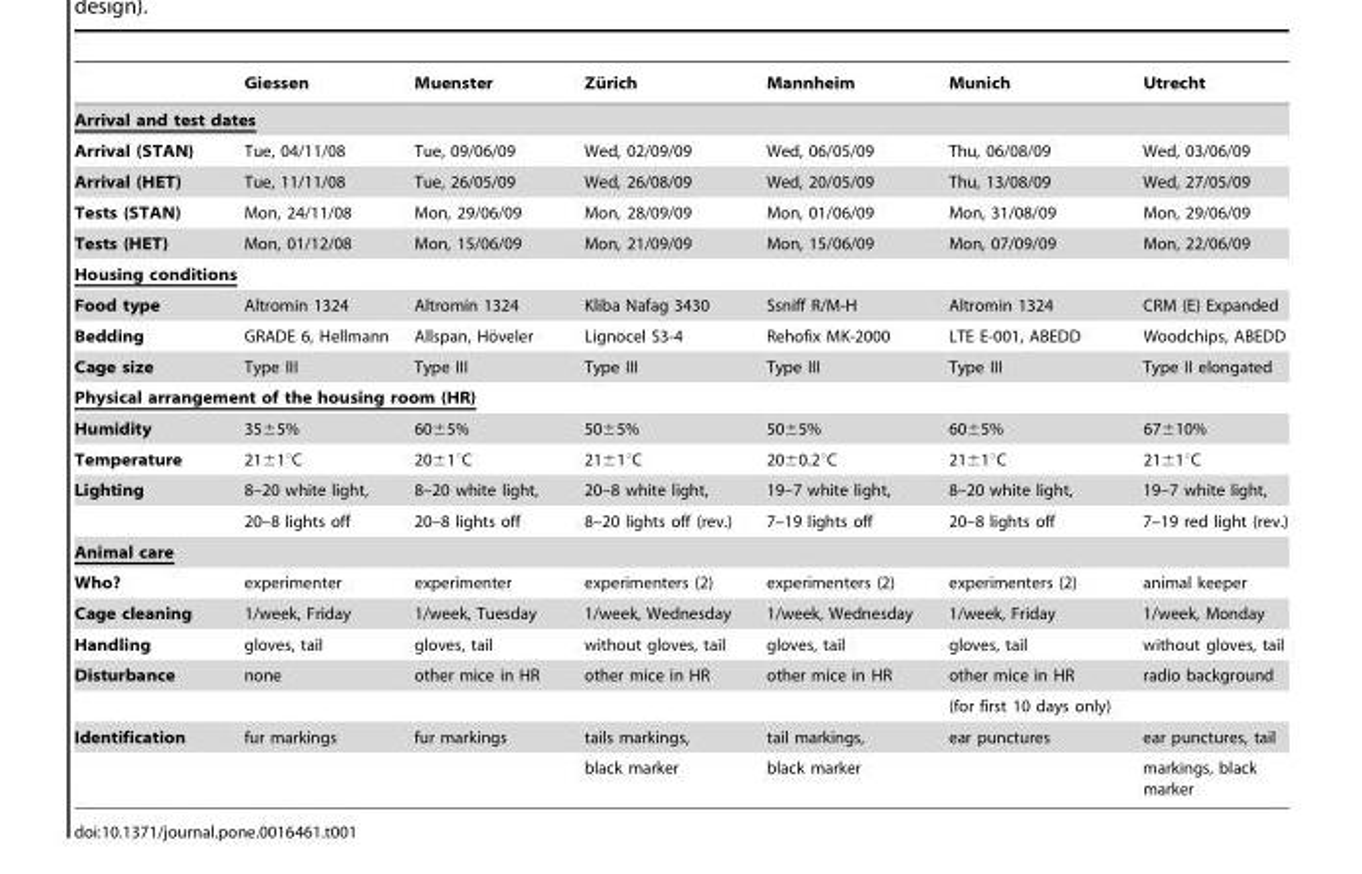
<table><thead><tr><td></td><td>Giessen</td><td>Muenster</td><td>Zu¨ rich</td><td>Mannheim</td><td>Munich</td><td>Utrecht</td></tr></thead><tbody><tr><td colspan="7">Arrival and test dates</td></tr><tr><td>Arrival (STAN)</td><td>Tue, 04/11/08</td><td>Tue, 09/06/09</td><td>Wed, 02/09/09</td><td>Wed, 06/05/09</td><td>Thu, 06/08/09</td><td>Wed, 03/06/09</td></tr><tr><td>Arrival (HET)</td><td>Tue, 11/11/08</td><td>Tue, 26/05/09</td><td>Wed, 26/08/09</td><td>Wed, 20/05/09</td><td>Thu, 13/08/09</td><td>Wed, 27/05/09</td></tr><tr><td>Tests (STAN)</td><td>Mon, 24/11/08</td><td>Mon, 29/06/09</td><td>Mon, 28/09/09</td><td>Mon, 01/06/09</td><td>Mon, 31/08/09</td><td>Mon, 29/06/09</td></tr><tr><td>Tests (HET)</td><td>Mon, 01/12/08</td><td>Mon, 15/06/09</td><td>Mon, 21/09/09</td><td>Mon, 15/06/09</td><td>Mon, 07/09/09</td><td>Mon, 22/06/09</td></tr><tr><td colspan="7">Housing conditions</td></tr><tr><td>Food type</td><td>Altromin 1324</td><td>Altromin 1324</td><td>Kliba Nafag 3430</td><td>Ssniff R/M-H</td><td>Altromin 1324</td><td>CRM (E) Expanded</td></tr><tr><td>Bedding</td><td>GRADE 6, Hellmann</td><td>Allspan, Ho¨veler</td><td>Lignocel S3-4</td><td>Rehofix MK-2000</td><td>LTE E-001, ABEDD</td><td>Woodchips, ABEDD</td></tr><tr><td>Cage size</td><td>Type III</td><td>Type III</td><td>Type III</td><td>Type III</td><td>Type III</td><td>Type II elongated</td></tr><tr><td colspan="7">Physical arrangement of the housing room (HR)</td></tr><tr><td>Humidity</td><td>35±5%</td><td>60±5%</td><td>50±5%</td><td>50±5%</td><td>60±5%</td><td>67±10%</td></tr><tr><td>Temperature</td><td>21±1°C</td><td>20±1°C</td><td>21±1°C</td><td>20±0.2°C</td><td>21±1°C</td><td>21±1°C</td></tr><tr><td rowspan="2">Lighting</td><td>8–20 white light,</td><td>8–20 white light,</td><td>20–8 white light,</td><td>19–7 white light,</td><td>8–20 white light,</td><td>19–7 white light,</td></tr><tr><td>20–8 lights off</td><td>20–8 lights off</td><td>8–20 lights off (rev.)</td><td>7–19 lights off</td><td>20–8 lights off</td><td>7–19 red light (rev.)</td></tr><tr><td colspan="7">Animal care</td></tr><tr><td>Who?</td><td>experimenter</td><td>experimenter</td><td>experimenters (2)</td><td>experimenters (2)</td><td>experimenters (2)</td><td>animal keeper</td></tr><tr><td>Cage cleaning</td><td>1/week, Friday</td><td>1/week, Tuesday</td><td>1/week, Wednesday</td><td>1/week, Wednesday</td><td>1/week, Friday</td><td>1/week, Monday</td></tr><tr><td>Handling</td><td>gloves, tail</td><td>gloves, tail</td><td>without gloves, tail</td><td>gloves, tail</td><td>gloves, tail</td><td>without gloves, tail</td></tr><tr><td rowspan="2">Disturbance</td><td>none</td><td>other mice in HR</td><td>other mice in HR</td><td>other mice in HR</td><td>other mice in HR</td><td>radio background</td></tr><tr><td></td><td></td><td></td><td></td><td>(for first 10 days only)</td><td></td></tr><tr><td rowspan="2">Identification</td><td>fur markings</td><td>fur markings</td><td>tails markings,</td><td>tail markings,</td><td>ear punctures</td><td>ear punctures, tail</td></tr><tr><td></td><td></td><td>black marker</td><td>black marker</td><td></td><td>markings, black marker</td></tr></tbody></table>